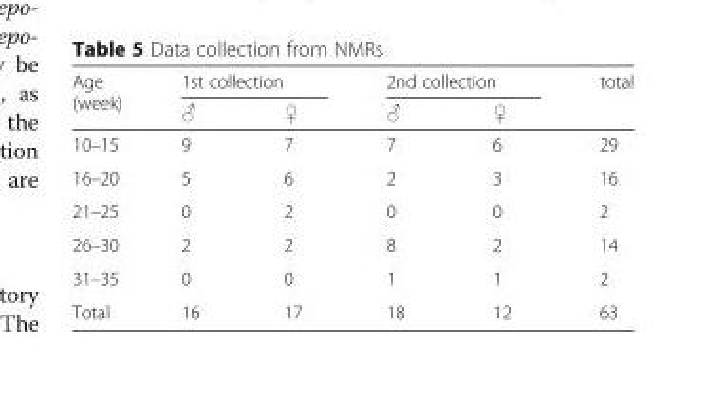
<table><thead><tr><td rowspan="2">Age (week)</td><td colspan="2">1st collection</td><td colspan="2">2nd collection</td><td rowspan="2">total</td></tr><tr><td>♂</td><td>♀</td><td>♂</td><td>♀</td></tr></thead><tbody><tr><td>10–15</td><td>9</td><td>7</td><td>7</td><td>6</td><td>29</td></tr><tr><td>16–20</td><td>5</td><td>6</td><td>2</td><td>3</td><td>16</td></tr><tr><td>21–25</td><td>0</td><td>2</td><td>0</td><td>0</td><td>2</td></tr><tr><td>26–30</td><td>2</td><td>2</td><td>8</td><td>2</td><td>14</td></tr><tr><td>31–35</td><td>0</td><td>0</td><td>1</td><td>1</td><td>2</td></tr><tr><td>Total</td><td>16</td><td>17</td><td>18</td><td>12</td><td>63</td></tr></tbody></table>